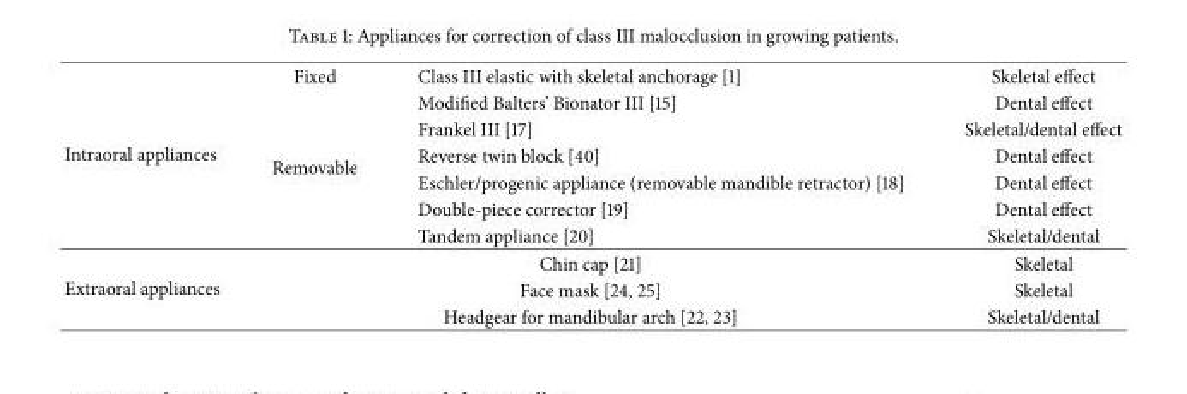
<table><tbody><tr><td rowspan="7">Intraoral appliances</td><td>Fixed</td><td>Class III elastic with skeletal anchorage [1]</td><td>Skeletal effect</td></tr><tr><td rowspan="6">Removable</td><td>Modified Balters’ Bionator III [15]</td><td>Dental effect</td></tr><tr><td>Frankel III [17]</td><td>Skeletal/dental effect</td></tr><tr><td>Reverse twin block [40]</td><td>Dental effect</td></tr><tr><td>Eschler/progenic appliance (removable mandible retractor) [18]</td><td>Dental effect</td></tr><tr><td>Double-piece corrector [19]</td><td>Dental effect</td></tr><tr><td>Tandem appliance [20]</td><td>Skeletal/dental</td></tr><tr><td rowspan="3">Extraoral appliances</td><td colspan="2">Chin cap [21]</td><td>Skeletal</td></tr><tr><td colspan="2">Face mask [24, 25]</td><td>Skeletal</td></tr><tr><td colspan="2">Headgear for mandibular arch [22, 23]</td><td>Skeletal/dental</td></tr></tbody></table>